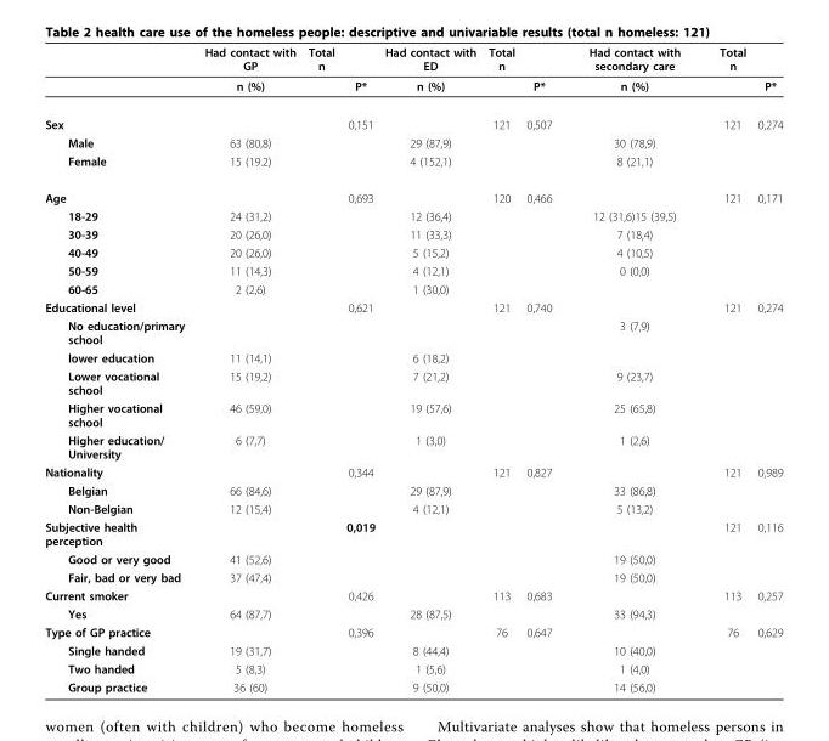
<table><thead><tr><td></td><td>Had contact with GP</td><td>Total n</td><td></td><td>Had contact with ED</td><td>Total n</td><td></td><td>Had contact with secondary care</td><td>Total n</td><td></td></tr></thead><tbody><tr><td></td><td>n (%)</td><td></td><td>P*</td><td>n (%)</td><td></td><td>P*</td><td>n (%)</td><td></td><td>P*</td></tr><tr><td>Sex</td><td></td><td></td><td>0,151</td><td></td><td>121</td><td>0,507</td><td></td><td>121</td><td>0,274</td></tr><tr><td>Male</td><td>63 (80,8)</td><td></td><td></td><td>29 (87,9)</td><td></td><td></td><td>30 (78,9)</td><td></td><td></td></tr><tr><td>Female</td><td>15 (19.2)</td><td></td><td></td><td>4 (152,1)</td><td></td><td></td><td>8 (21,1)</td><td></td><td></td></tr><tr><td>Age</td><td></td><td></td><td>0,693</td><td></td><td>120</td><td>0,466</td><td></td><td>121</td><td>0,171</td></tr><tr><td>18-29</td><td>24 (31,2)</td><td></td><td></td><td>12 (36,4)</td><td></td><td></td><td>12 (31,6)15 (39,5)</td><td></td><td></td></tr><tr><td>30-39</td><td>20 (26,0)</td><td></td><td></td><td>11 (33,3)</td><td></td><td></td><td>7 (18,4)</td><td></td><td></td></tr><tr><td>40-49</td><td>20 (26,0)</td><td></td><td></td><td>5 (15,2)</td><td></td><td></td><td>4 (10,5)</td><td></td><td></td></tr><tr><td>50-59</td><td>11 (14,3)</td><td></td><td></td><td>4 (12,1)</td><td></td><td></td><td>0 (0,0)</td><td></td><td></td></tr><tr><td>60-65</td><td>2 (2,6)</td><td></td><td></td><td>1 (30,0)</td><td></td><td></td><td></td><td></td><td></td></tr><tr><td>Educational level</td><td></td><td></td><td>0,621</td><td></td><td>121</td><td>0,740</td><td></td><td>121</td><td>0,274</td></tr><tr><td>No education/primary school</td><td></td><td></td><td></td><td></td><td></td><td></td><td>3 (7,9)</td><td></td><td></td></tr><tr><td>lower education</td><td>11 (14,1)</td><td></td><td></td><td>6 (18,2)</td><td></td><td></td><td></td><td></td><td></td></tr><tr><td>Lower vocational school</td><td>15 (19,2)</td><td></td><td></td><td>7 (21,2)</td><td></td><td></td><td>9 (23,7)</td><td></td><td></td></tr><tr><td>Higher vocational school</td><td>46 (59,0)</td><td></td><td></td><td>19 (57,6)</td><td></td><td></td><td>25 (65,8)</td><td></td><td></td></tr><tr><td>Higher education/ University</td><td>6 (7,7)</td><td></td><td></td><td>1 (3,0)</td><td></td><td></td><td>1 (2,6)</td><td></td><td></td></tr><tr><td>Nationality</td><td></td><td></td><td>0,344</td><td></td><td>121</td><td>0,827</td><td></td><td>121</td><td>0,989</td></tr><tr><td>Belgian</td><td>66 (84,6)</td><td></td><td></td><td>29 (87,9)</td><td></td><td></td><td>33 (86,8)</td><td></td><td></td></tr><tr><td>Non-Belgian</td><td>12 (15,4)</td><td></td><td></td><td>4 (12,1)</td><td></td><td></td><td>5 (13,2)</td><td></td><td></td></tr><tr><td>Subjective health perception</td><td></td><td></td><td>0,019</td><td></td><td></td><td></td><td></td><td>121</td><td>0,116</td></tr><tr><td>Good or very good</td><td>41 (52,6)</td><td></td><td></td><td></td><td></td><td></td><td>19 (50,0)</td><td></td><td></td></tr><tr><td>Fair, bad or very bad</td><td>37 (47,4)</td><td></td><td></td><td></td><td></td><td></td><td>19 (50,0)</td><td></td><td></td></tr><tr><td>Current smoker</td><td></td><td></td><td>0,426</td><td></td><td>113</td><td>0,683</td><td></td><td>113</td><td>0,257</td></tr><tr><td>Yes</td><td>64 (87,7)</td><td></td><td></td><td>28 (87,5)</td><td></td><td></td><td>33 (94,3)</td><td></td><td></td></tr><tr><td>Type of GP practice</td><td></td><td></td><td>0,396</td><td></td><td>76</td><td>0,647</td><td></td><td>76</td><td>0,629</td></tr><tr><td>Single handed</td><td>19 (31,7)</td><td></td><td></td><td>8 (44,4)</td><td></td><td></td><td>10 (40,0)</td><td></td><td></td></tr><tr><td>Two handed</td><td>5 (8,3)</td><td></td><td></td><td>1 (5,6)</td><td></td><td></td><td>1 (4,0)</td><td></td><td></td></tr><tr><td>Group practice</td><td>36 (60)</td><td></td><td></td><td>9 (50,0)</td><td></td><td></td><td>14 (56,0)</td><td></td><td></td></tr></tbody></table>